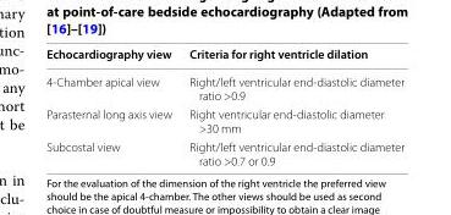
<table><thead><tr><td>Echocardiography view</td><td>Criteria for right ventricle dilation</td></tr></thead><tbody><tr><td>4-Chamber apical view</td><td>Right/left ventricular end-diastolic diameter ratio &gt;0.9</td></tr><tr><td>Parasternal long axis view</td><td>Right ventricular end-diastolic diameter &gt;30 mm</td></tr><tr><td>Subcostal view</td><td>Right/left ventricular end-diastolic diameter ratio &gt;0.7 or 0.9</td></tr></tbody></table>